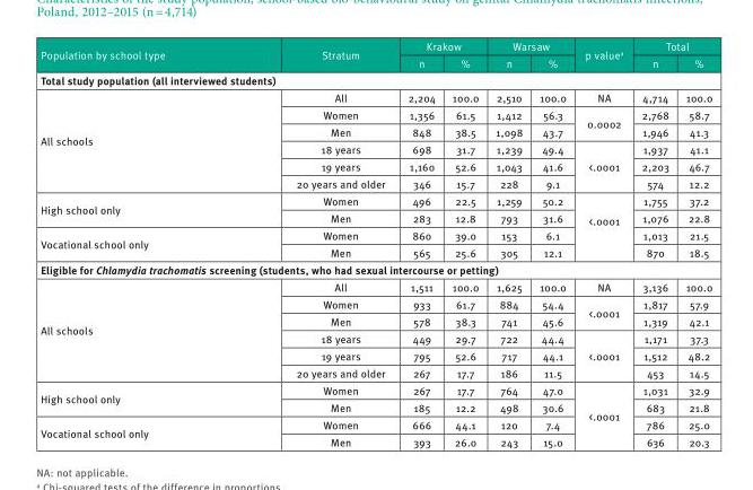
<table><thead><tr><td rowspan="2">Population by school type</td><td rowspan="2">Stratum</td><td colspan="2">Krakow</td><td colspan="2">Warsaw</td><td rowspan="2">p value<sup>a</sup></td><td colspan="2">Total</td></tr><tr><td>n</td><td>%</td><td>n</td><td>%</td><td>n</td><td>%</td></tr></thead><tbody><tr><td colspan="9">Total study population (all interviewed students)</td></tr><tr><td rowspan="6">All schools</td><td>All</td><td>2,204</td><td>100.0</td><td>2,510</td><td>100.0</td><td>NA</td><td>4,714</td><td>100.0</td></tr><tr><td>Women</td><td>1,356</td><td>61.5</td><td>1,412</td><td>56.3</td><td rowspan="2">0.0002</td><td>2,768</td><td>58.7</td></tr><tr><td>Men</td><td>848</td><td>38.5</td><td>1,098</td><td>43.7</td><td>1,946</td><td>41.3</td></tr><tr><td>18 years</td><td>698</td><td>31.7</td><td>1,239</td><td>49.4</td><td rowspan="3">&lt;.0001</td><td>1,937</td><td>41.1</td></tr><tr><td>19 years</td><td>1,160</td><td>52.6</td><td>1,043</td><td>41.6</td><td>2,203</td><td>46.7</td></tr><tr><td>20 years and older</td><td>346</td><td>15.7</td><td>228</td><td>9.1</td><td>574</td><td>12.2</td></tr><tr><td rowspan="2">High school only</td><td>Women</td><td>496</td><td>22.5</td><td>1,259</td><td>50.2</td><td rowspan="4">&lt;.0001</td><td>1,755</td><td>37.2</td></tr><tr><td>Men</td><td>283</td><td>12.8</td><td>793</td><td>31.6</td><td>1,076</td><td>22.8</td></tr><tr><td rowspan="2">Vocational school only</td><td>Women</td><td>860</td><td>39.0</td><td>153</td><td>6.1</td><td>1,013</td><td>21.5</td></tr><tr><td>Men</td><td>565</td><td>25.6</td><td>305</td><td>12.1</td><td>870</td><td>18.5</td></tr><tr><td colspan="9">Eligible for Chlamydia trachomatis screening (students, who had sexual intercourse or petting)</td></tr><tr><td rowspan="6">All schools</td><td>All</td><td>1,511</td><td>100.0</td><td>1,625</td><td>100.0</td><td>NA</td><td>3,136</td><td>100.0</td></tr><tr><td>Women</td><td>933</td><td>61.7</td><td>884</td><td>54.4</td><td rowspan="2">&lt;.0001</td><td>1,817</td><td>57.9</td></tr><tr><td>Men</td><td>578</td><td>38.3</td><td>741</td><td>45.6</td><td>1,319</td><td>42.1</td></tr><tr><td>18 years</td><td>449</td><td>29.7</td><td>722</td><td>44.4</td><td rowspan="3">&lt;.0001</td><td>1,171</td><td>37.3</td></tr><tr><td>19 years</td><td>795</td><td>52.6</td><td>717</td><td>44.1</td><td>1,512</td><td>48.2</td></tr><tr><td>20 years and older</td><td>267</td><td>17.7</td><td>186</td><td>11.5</td><td>453</td><td>14.5</td></tr><tr><td rowspan="2">High school only</td><td>Women</td><td>267</td><td>17.7</td><td>764</td><td>47.0</td><td rowspan="4">&lt;.0001</td><td>1,031</td><td>32.9</td></tr><tr><td>Men</td><td>185</td><td>12.2</td><td>498</td><td>30.6</td><td>683</td><td>21.8</td></tr><tr><td rowspan="2">Vocational school only</td><td>Women</td><td>666</td><td>44.1</td><td>120</td><td>7.4</td><td>786</td><td>25.0</td></tr><tr><td>Men</td><td>393</td><td>26.0</td><td>243</td><td>15.0</td><td>636</td><td>20.3</td></tr></tbody></table>